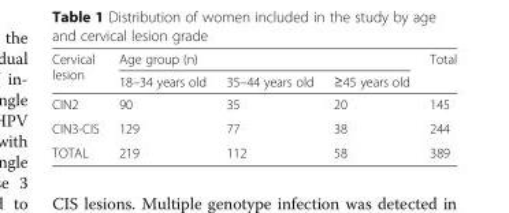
<table><thead><tr><td rowspan="2">Cervical lesion</td><td colspan="3">Age group (n)</td><td rowspan="2">Total</td></tr><tr><td>18–34 years old</td><td>35–44 years old</td><td>≥45 years old</td></tr></thead><tbody><tr><td>CIN2</td><td>90</td><td>35</td><td>20</td><td>145</td></tr><tr><td>CIN3-CIS</td><td>129</td><td>77</td><td>38</td><td>244</td></tr><tr><td>TOTAL</td><td>219</td><td>112</td><td>58</td><td>389</td></tr></tbody></table>